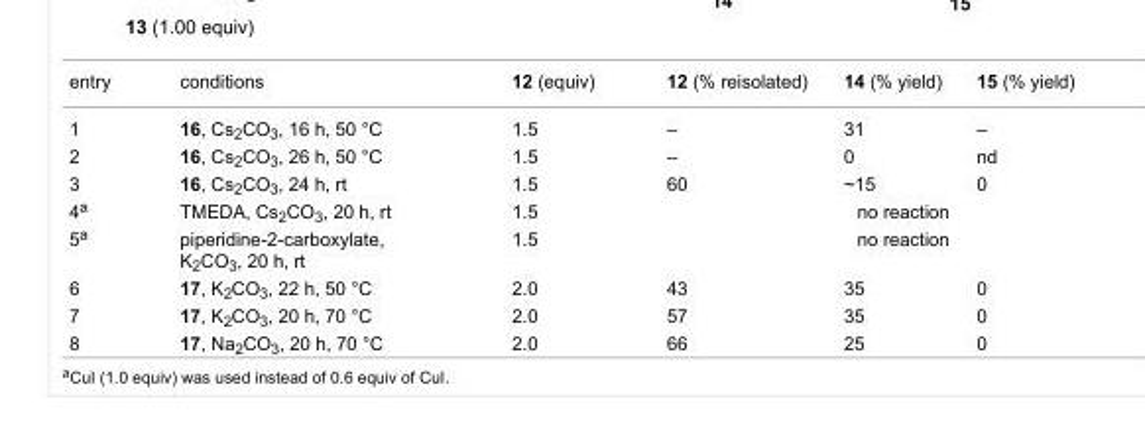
<table><tbody><tr><td>entry</td><td>conditions</td><td>12 (equiv)</td><td>12 (% reisolated)</td><td>14 (% yield)</td><td>15 (% yield)</td></tr><tr><td>1</td><td>16, Cs<sub>2</sub>CO<sub>3</sub>, 16 h, 50 °C</td><td>1.5</td><td>–</td><td>31</td><td>–</td></tr><tr><td>2</td><td>16, Cs<sub>2</sub>CO<sub>3</sub>, 26 h, 50 °C</td><td>1.5</td><td>–</td><td>0</td><td>nd</td></tr><tr><td>3</td><td>16, Cs<sub>2</sub>CO<sub>3</sub>, 24 h, rt</td><td>1.5</td><td>60</td><td>~15</td><td>0</td></tr><tr><td>4<sup>a</sup></td><td>TMEDA, Cs<sub>2</sub>CO<sub>3</sub>, 20 h, rt</td><td>1.5</td><td colspan="3">no reaction</td></tr><tr><td>5<sup>a</sup></td><td>piperidine-2-carboxylate, K<sub>2</sub>CO<sub>3</sub>, 20 h, rt</td><td>1.5</td><td colspan="3">no reaction</td></tr><tr><td>6</td><td>17, K<sub>2</sub>CO<sub>3</sub>, 22 h, 50 °C</td><td>2.0</td><td>43</td><td>35</td><td>0</td></tr><tr><td>7</td><td>17, K<sub>2</sub>CO<sub>3</sub>, 20 h, 70 °C</td><td>2.0</td><td>57</td><td>35</td><td>0</td></tr><tr><td>8</td><td>17, Na<sub>2</sub>CO<sub>3</sub>, 20 h, 70 °C</td><td>2.0</td><td>66</td><td>25</td><td>0</td></tr></tbody></table>